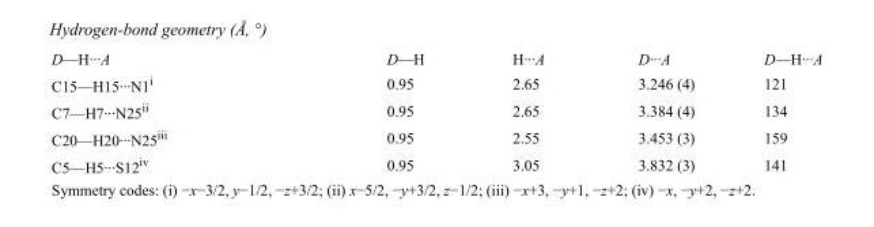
<table><tbody><tr><td>D—H···A</td><td>D—H</td><td>H···A</td><td>D···A</td><td>D—H···A</td></tr><tr><td>C15—H15···N1<sup>i</sup></td><td>0.95</td><td>2.65</td><td>3.246 (4)</td><td>121</td></tr><tr><td>C7—H7···N25<sup>ii</sup></td><td>0.95</td><td>2.65</td><td>3.384 (4)</td><td>134</td></tr><tr><td>C20—H20···N25<sup>iii</sup></td><td>0.95</td><td>2.55</td><td>3.453 (3)</td><td>159</td></tr><tr><td>C5—H5···S12<sup>iv</sup></td><td>0.95</td><td>3.05</td><td>3.832 (3)</td><td>141</td></tr></tbody></table>